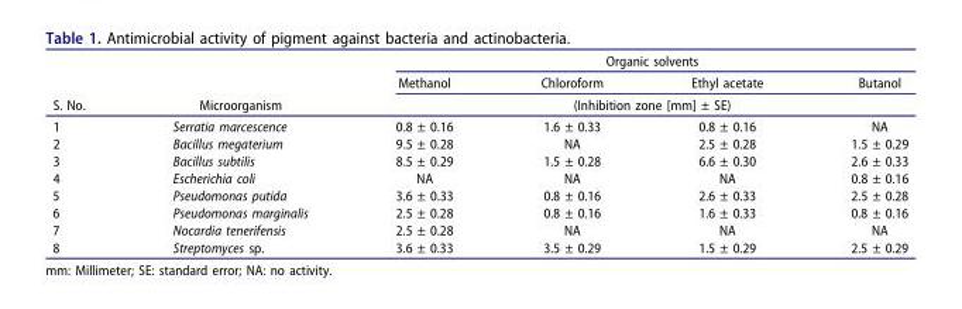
<table><thead><tr><td rowspan="3">S. No.</td><td rowspan="3">Microorganism</td><td colspan="4">Organic solvents</td></tr><tr><td>Methanol</td><td>Chloroform</td><td>Ethyl acetate</td><td>Butanol</td></tr><tr><td colspan="4">(Inhibition zone [mm] ± SE)</td></tr></thead><tbody><tr><td>1</td><td>Serratia marcescence</td><td>0.8 ± 0.16</td><td>1.6 ± 0.33</td><td>0.8 ± 0.16</td><td>NA</td></tr><tr><td>2</td><td>Bacillus megaterium</td><td>9.5 ± 0.28</td><td>NA</td><td>2.5 ± 0.28</td><td>1.5 ± 0.29</td></tr><tr><td>3</td><td>Bacillus subtilis</td><td>8.5 ± 0.29</td><td>1.5 ± 0.28</td><td>6.6 ± 0.30</td><td>2.6 ± 0.33</td></tr><tr><td>4</td><td>Escherichia coli</td><td>NA</td><td>NA</td><td>NA</td><td>0.8 ± 0.16</td></tr><tr><td>5</td><td>Pseudomonas putida</td><td>3.6 ± 0.33</td><td>0.8 ± 0.16</td><td>2.6 ± 0.33</td><td>2.5 ± 0.28</td></tr><tr><td>6</td><td>Pseudomonas marginalis</td><td>2.5 ± 0.28</td><td>0.8 ± 0.16</td><td>1.6 ± 0.33</td><td>0.8 ± 0.16</td></tr><tr><td>7</td><td>Nocardia tenerifensis</td><td>2.5 ± 0.28</td><td>NA</td><td>NA</td><td>NA</td></tr><tr><td>8</td><td>Streptomyces sp.</td><td>3.6 ± 0.33</td><td>3.5 ± 0.29</td><td>1.5 ± 0.29</td><td>2.5 ± 0.29</td></tr></tbody></table>